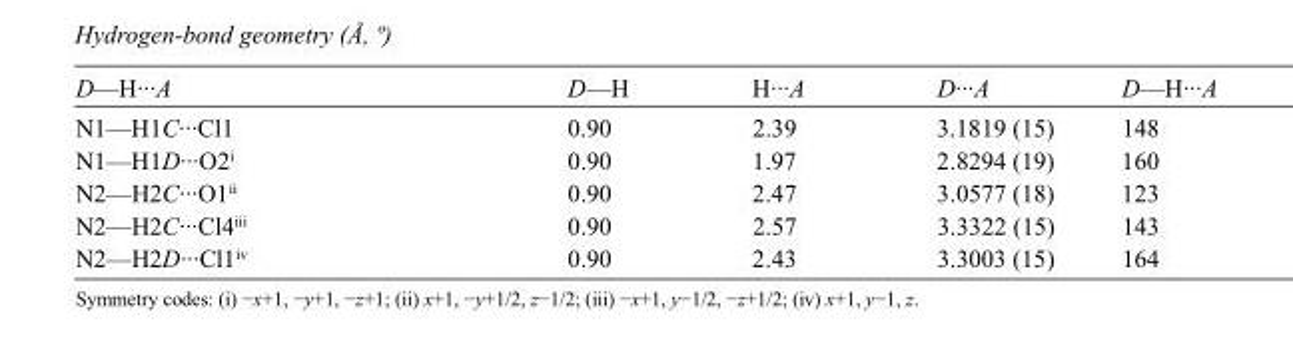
<table><tbody><tr><td>D—H···A</td><td>D—H</td><td>H···A</td><td>D···A</td><td>D—H···A</td></tr><tr><td>N1—H1C···Cl1</td><td>0.90</td><td>2.39</td><td>3.1819 (15)</td><td>148</td></tr><tr><td>N1—H1D···O2<sup>i</sup></td><td>0.90</td><td>1.97</td><td>2.8294 (19)</td><td>160</td></tr><tr><td>N2—H2C···O1<sup>ii</sup></td><td>0.90</td><td>2.47</td><td>3.0577 (18)</td><td>123</td></tr><tr><td>N2—H2C···Cl4<sup>iii</sup></td><td>0.90</td><td>2.57</td><td>3.3322 (15)</td><td>143</td></tr><tr><td>N2—H2D···Cl1<sup>iv</sup></td><td>0.90</td><td>2.43</td><td>3.3003 (15)</td><td>164</td></tr></tbody></table>